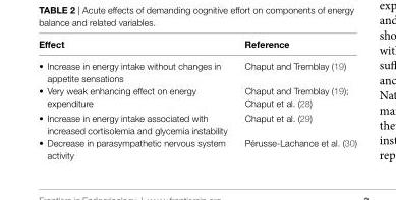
<table><thead><tr><td>effect</td><td>reference</td></tr></thead><tbody><tr><td>• Increase in energy intake without changes in appetite sensations</td><td>Chaput and Tremblay (19)</td></tr><tr><td>• Very weak enhancing effect on energy expenditure</td><td>Chaput and Tremblay (19); Chaput et al. (28)</td></tr><tr><td>• Increase in energy intake associated with increased cortisolemia and glycemia instability</td><td>Chaput et al. (29)</td></tr><tr><td>• Decrease in parasympathetic nervous system activity</td><td>Pérusse-Lachance et al. (30)</td></tr></tbody></table>